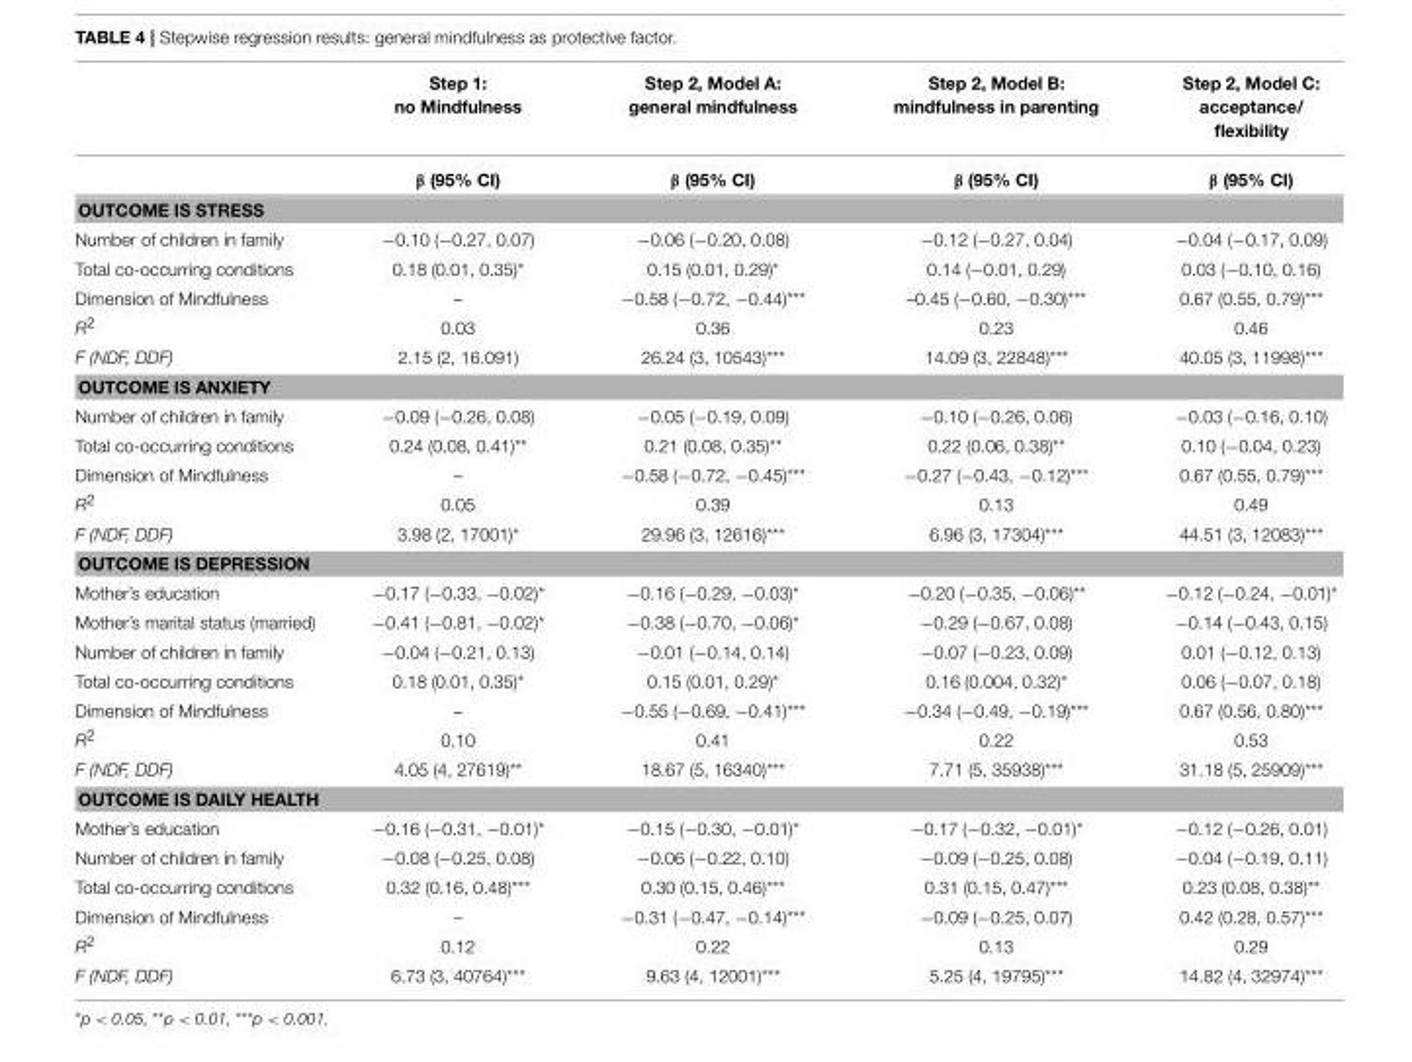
<table><thead><tr><td></td><td>Step 1: no Mindfulness</td><td>Step 2, Model A: general mindfulness</td><td>Step 2, Model B: mindfulness in parenting</td><td>Step 2, Model C: acceptance/ flexibility</td></tr></thead><tbody><tr><td></td><td>β (95% CI)</td><td>β (95% CI)</td><td>β (95% CI)</td><td>β (95% CI)</td></tr><tr><td colspan="5">OUTCOME IS STRESS</td></tr><tr><td>Number of children in family</td><td>−0.10 (−0.27, 0.07)</td><td>−0.06 (−0.20, 0.08)</td><td>−0.12 (−0.27, 0.04)</td><td>−0.04 (−0.17, 0.09)</td></tr><tr><td>Total co-occurring conditions</td><td>0.18 (0.01, 0.35)*</td><td>0.15 (0.01, 0.29)*</td><td>0.14 (−0.01, 0.29)</td><td>0.03 (−0.10, 0.16)</td></tr><tr><td>Dimension of Mindfulness</td><td>–</td><td>−0.58 (−0.72, −0.44)***</td><td>–0.45 (−0.60, −0.30)***</td><td>0.67 (0.55, 0.79)***</td></tr><tr><td>R<sup>2</sup></td><td>0.03</td><td>0.36</td><td>0.23</td><td>0.46</td></tr><tr><td>F (NDF, DDF)</td><td>2.15 (2, 16.091)</td><td>26.24 (3, 10543)***</td><td>14.09 (3, 22848)***</td><td>40.05 (3, 11998)***</td></tr><tr><td colspan="5">OUTCOME IS ANXIETY</td></tr><tr><td>Number of children in family</td><td>−0.09 (−0.26, 0.08)</td><td>−0.05 (−0.19, 0.09)</td><td>−0.10 (−0.26, 0.06)</td><td>−0.03 (−0.16, 0.10)</td></tr><tr><td>Total co-occurring conditions</td><td>0.24 (0.08, 0.41)**</td><td>0.21 (0.08, 0.35)**</td><td>0.22 (0.06, 0.38)**</td><td>0.10 (−0.04, 0.23)</td></tr><tr><td>Dimension of Mindfulness</td><td>–</td><td>−0.58 (−0.72, −0.45)***</td><td>−0.27 (−0.43, −0.12)***</td><td>0.67 (0.55, 0.79)***</td></tr><tr><td>R<sup>2</sup></td><td>0.05</td><td>0.39</td><td>0.13</td><td>0.49</td></tr><tr><td>F (NDF, DDF)</td><td>3.98 (2, 17001)*</td><td>29.96 (3, 12616)***</td><td>6.96 (3, 17304)***</td><td>44.51 (3, 12083)***</td></tr><tr><td colspan="5">OUTCOME IS DEPRESSION</td></tr><tr><td>Mother’s education</td><td>−0.17 (−0.33, −0.02)*</td><td>−0.16 (−0.29, −0.03)*</td><td>−0.20 (−0.35, −0.06)**</td><td>−0.12 (−0.24, −0.01)*</td></tr><tr><td>Mother’s marital status (married)</td><td>−0.41 (−0.81, −0.02)*</td><td>−0.38 (−0.70, −0.06)*</td><td>−0.29 (−0.67, 0.08)</td><td>−0.14 (−0.43, 0.15)</td></tr><tr><td>Number of children in family</td><td>−0.04 (−0.21, 0.13)</td><td>−0.01 (−0.14, 0.14)</td><td>−0.07 (−0.23, 0.09)</td><td>0.01 (−0.12, 0.13)</td></tr><tr><td>Total co-occurring conditions</td><td>0.18 (0.01, 0.35)*</td><td>0.15 (0.01, 0.29)*</td><td>0.16 (0.004, 0.32)*</td><td>0.06 (−0.07, 0.18)</td></tr><tr><td>Dimension of Mindfulness</td><td>–</td><td>−0.55 (−0.69, −0.41)***</td><td>−0.34 (−0.49, −0.19)***</td><td>0.67 (0.56, 0.80)***</td></tr><tr><td>R<sup>2</sup></td><td>0.10</td><td>0.41</td><td>0.22</td><td>0.53</td></tr><tr><td>F (NDF, DDF)</td><td>4.05 (4, 27619)**</td><td>18.67 (5, 16340)***</td><td>7.71 (5, 35938)***</td><td>31.18 (5, 25909)***</td></tr><tr><td colspan="5">OUTCOME IS DAILY HEALTH</td></tr><tr><td>Mother’s education</td><td>−0.16 (−0.31, −0.01)*</td><td>−0.15 (−0.30, −0.01)*</td><td>−0.17 (−0.32, −0.01)*</td><td>−0.12 (−0.26, 0.01)</td></tr><tr><td>Number of children in family</td><td>−0.08 (−0.25, 0.08)</td><td>−0.06 (−0.22, 0.10)</td><td>−0.09 (−0.25, 0.08)</td><td>−0.04 (−0.19, 0.11)</td></tr><tr><td>Total co-occurring conditions</td><td>0.32 (0.16, 0.48)***</td><td>0.30 (0.15, 0.46)***</td><td>0.31 (0.15, 0.47)***</td><td>0.23 (0.08, 0.38)**</td></tr><tr><td>Dimension of Mindfulness</td><td>–</td><td>−0.31 (−0.47, −0.14)***</td><td>−0.09 (−0.25, 0.07)</td><td>0.42 (0.28, 0.57)***</td></tr><tr><td>R<sup>2</sup></td><td>0.12</td><td>0.22</td><td>0.13</td><td>0.29</td></tr><tr><td>F (NDF, DDF)</td><td>6.73 (3, 40764)***</td><td>9.63 (4, 12001)***</td><td>5.25 (4, 19795)***</td><td>14.82 (4, 32974)***</td></tr></tbody></table>